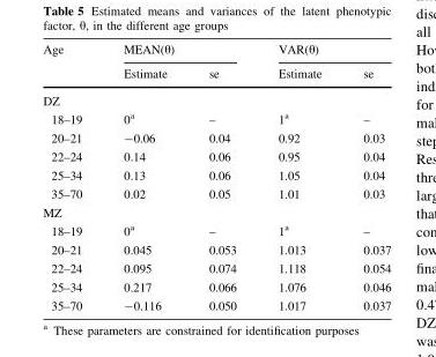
<table><thead><tr><td rowspan="2">Age</td><td colspan="2">MEAN(θ)</td><td colspan="2">VAR(θ)</td></tr><tr><td>Estimate</td><td>se</td><td>Estimate</td><td>se</td></tr></thead><tbody><tr><td colspan="5">DZ</td></tr><tr><td>18–19</td><td>0<sup>a</sup></td><td>–</td><td>1<sup>a</sup></td><td>–</td></tr><tr><td>20–21</td><td>-0.06</td><td>0.04</td><td>0.92</td><td>0.03</td></tr><tr><td>22–24</td><td>0.14</td><td>0.06</td><td>0.95</td><td>0.04</td></tr><tr><td>25–34</td><td>0.13</td><td>0.06</td><td>1.05</td><td>0.04</td></tr><tr><td>35–70</td><td>0.02</td><td>0.05</td><td>1.01</td><td>0.03</td></tr><tr><td colspan="5">MZ</td></tr><tr><td>18–19</td><td>0<sup>a</sup></td><td>–</td><td>1<sup>a</sup></td><td>–</td></tr><tr><td>20–21</td><td>0.045</td><td>0.053</td><td>1.013</td><td>0.037</td></tr><tr><td>22–24</td><td>0.095</td><td>0.074</td><td>1.118</td><td>0.054</td></tr><tr><td>25–34</td><td>0.217</td><td>0.066</td><td>1.076</td><td>0.046</td></tr><tr><td>35–70</td><td>-0.116</td><td>0.050</td><td>1.017</td><td>0.037</td></tr></tbody></table>